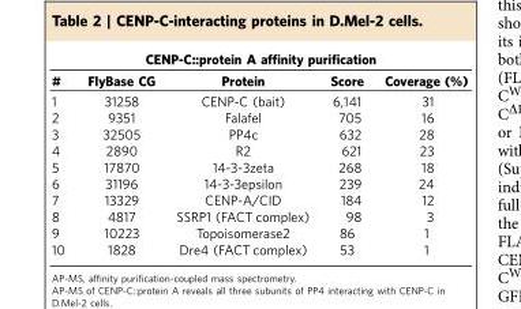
<table><thead><tr><td colspan="5">CENP-C::protein A affinity purification</td></tr><tr><td>#</td><td>FlyBase CG</td><td>Protein</td><td>Score</td><td>Coverage (%)</td></tr></thead><tbody><tr><td>1</td><td>31258</td><td>CENP-C (bait)</td><td>6,141</td><td>31</td></tr><tr><td>2</td><td>9351</td><td>Falafel</td><td>705</td><td>16</td></tr><tr><td>3</td><td>32505</td><td>PP4c</td><td>632</td><td>28</td></tr><tr><td>4</td><td>2890</td><td>R2</td><td>621</td><td>23</td></tr><tr><td>5</td><td>17870</td><td>14-3-3zeta</td><td>268</td><td>18</td></tr><tr><td>6</td><td>31196</td><td>14-3-3epsilon</td><td>239</td><td>24</td></tr><tr><td>7</td><td>13329</td><td>CENP-A/CID</td><td>184</td><td>12</td></tr><tr><td>8</td><td>4817</td><td>SSRP1 (FACT complex)</td><td>98</td><td>3</td></tr><tr><td>9</td><td>10223</td><td>Topoisomerase2</td><td>86</td><td>1</td></tr><tr><td>10</td><td>1828</td><td>Dre4 (FACT complex)</td><td>53</td><td>1</td></tr></tbody></table>